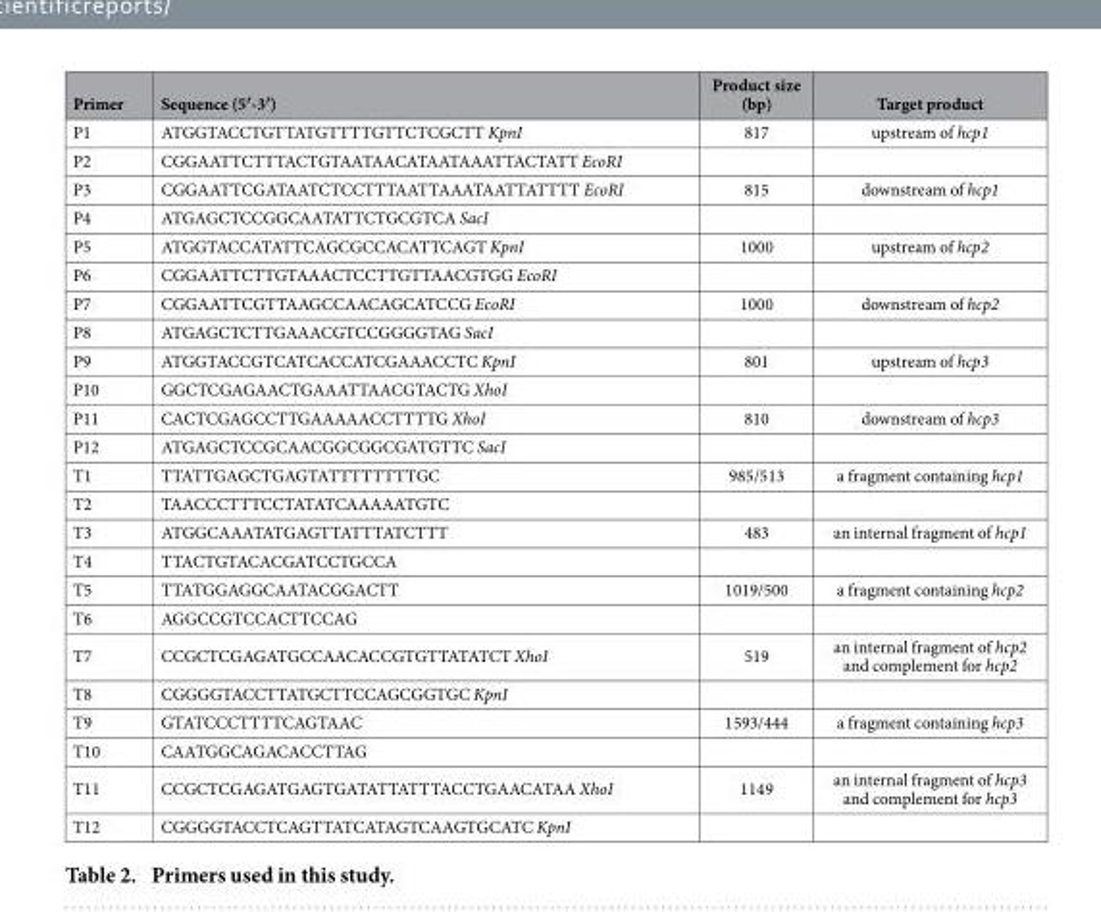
<table><thead><tr><td>Primer</td><td>Sequence (5′-3′)</td><td>Product size (bp)</td><td>Target product</td></tr></thead><tbody><tr><td>P1</td><td>ATGGTACCTGTTATGTTTTGTTCTCGCTT KpnI</td><td>817</td><td>upstream of hcp1</td></tr><tr><td>P2</td><td>CGGAATTCTTTACTGTAATAACATAATAAATTACTATT EcoRI</td><td></td><td></td></tr><tr><td>P3</td><td>CGGAATTCGATAATCTCCTTTAATTAAATAATTATTTT EcoRI</td><td>815</td><td>downstream of hcp1</td></tr><tr><td>P4</td><td>ATGAGCTCCGGCAATATTCTGCGTCA SacI</td><td></td><td></td></tr><tr><td>P5</td><td>ATGGTACCATATTCAGCGCCACATTCAGT KpnI</td><td>1000</td><td>upstream of hcp2</td></tr><tr><td>P6</td><td>CGGAATTCTTGTAAACTCCTTGTTAACGTGG EcoRI</td><td></td><td></td></tr><tr><td>P7</td><td>CGGAATTCGTTAAGCCAACAGCATCCG EcoRI</td><td>1000</td><td>downstream of hcp2</td></tr><tr><td>P8</td><td>ATGAGCTCTTGAAACGTCCGGGGTAG SacI</td><td></td><td></td></tr><tr><td>P9</td><td>ATGGTACCGTCATCACCATCGAAACCTC KpnI</td><td>801</td><td>upstream of hcp3</td></tr><tr><td>P10</td><td>GGCTCGAGAACTGAAATTAACGTACTG XhoI</td><td></td><td></td></tr><tr><td>P11</td><td>CACTCGAGCCTTGAAAAACCTTTTG XhoI</td><td>810</td><td>downstream of hcp3</td></tr><tr><td>P12</td><td>ATGAGCTCCGCAACGGCGGCGATGTTC SacI</td><td></td><td></td></tr><tr><td>T1</td><td>TTATTGAGCTGAGTATTTTTTTTGC</td><td>985/513</td><td>a fragment containing hcp1</td></tr><tr><td>T2</td><td>TAACCCTTTCCTATATCAAAAATGTC</td><td></td><td></td></tr><tr><td>T3</td><td>ATGGCAAATATGAGTTATTTATCTTT</td><td>483</td><td>an internal fragment of hcp1</td></tr><tr><td>T4</td><td>TTACTGTACACGATCCTGCCA</td><td></td><td></td></tr><tr><td>T5</td><td>TTATGGAGGCAATACGGACTT</td><td>1019/500</td><td>a fragment containing hcp2</td></tr><tr><td>T6</td><td>AGGCCGTCCACTTCCAG</td><td></td><td></td></tr><tr><td>T7</td><td>CCGCTCGAGATGCCAACACCGTGTTATATCT XhoI</td><td>519</td><td>an internal fragment of hcp2 and complement for hcp2</td></tr><tr><td>T8</td><td>CGGGGTACCTTATGCTTCCAGCGGTGC KpnI</td><td></td><td></td></tr><tr><td>T9</td><td>GTATCCCTTTTCAGTAAC</td><td>1593/444</td><td>a fragment containing hcp3</td></tr><tr><td>T10</td><td>CAATGGCAGACACCTTAG</td><td></td><td></td></tr><tr><td>T11</td><td>CCGCTCGAGATGAGTGATATTATTTACCTGAACATAA XhoI</td><td>1149</td><td>an internal fragment of hcp3 and complement for hcp3</td></tr><tr><td>T12</td><td>CGGGGTACCTCAGTTATCATAGTCAAGTGCATC KpnI</td><td></td><td></td></tr></tbody></table>